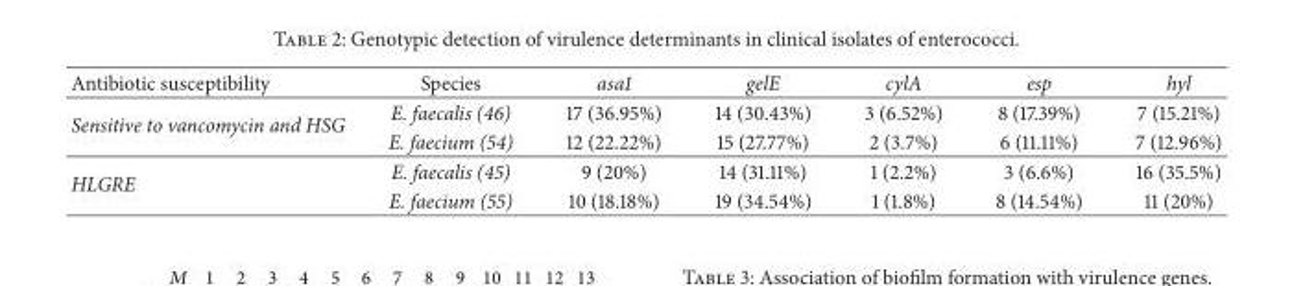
<table><thead><tr><td>Antibiotic susceptibility</td><td>Species</td><td>asa1</td><td>gelE</td><td>cylA</td><td>esp</td><td>hyl</td></tr></thead><tbody><tr><td rowspan="2">Sensitive to vancomycin and HSG</td><td>E. faecalis (46)</td><td>17 (36.95%)</td><td>14 (30.43%)</td><td>3 (6.52%)</td><td>8 (17.39%)</td><td>7 (15.21%)</td></tr><tr><td>E. faecium (54)</td><td>12 (22.22%)</td><td>15 (27.77%)</td><td>2 (3.7%)</td><td>6 (11.11%)</td><td>7 (12.96%)</td></tr><tr><td rowspan="2">HLGRE</td><td>E. faecalis (45)</td><td>9 (20%)</td><td>14 (31.11%)</td><td>1 (2.2%)</td><td>3 (6.6%)</td><td>16 (35.5%)</td></tr><tr><td>E. faecium (55)</td><td>10 (18.18%)</td><td>19 (34.54%)</td><td>1 (1.8%)</td><td>8 (14.54%)</td><td>11 (20%)</td></tr></tbody></table>